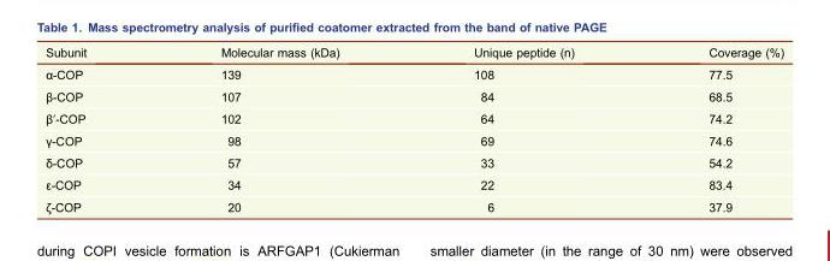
<table><thead><tr><td>Subunit</td><td>Molecular mass (kDa)</td><td>Unique peptide (n)</td><td>Coverage (%)</td></tr></thead><tbody><tr><td>α-COP</td><td>139</td><td>108</td><td>77.5</td></tr><tr><td>β-COP</td><td>107</td><td>84</td><td>68.5</td></tr><tr><td>β′-COP</td><td>102</td><td>64</td><td>74.2</td></tr><tr><td>γ-COP</td><td>98</td><td>69</td><td>74.6</td></tr><tr><td>δ-COP</td><td>57</td><td>33</td><td>54.2</td></tr><tr><td>ε-COP</td><td>34</td><td>22</td><td>83.4</td></tr><tr><td>ζ-COP</td><td>20</td><td>6</td><td>37.9</td></tr></tbody></table>